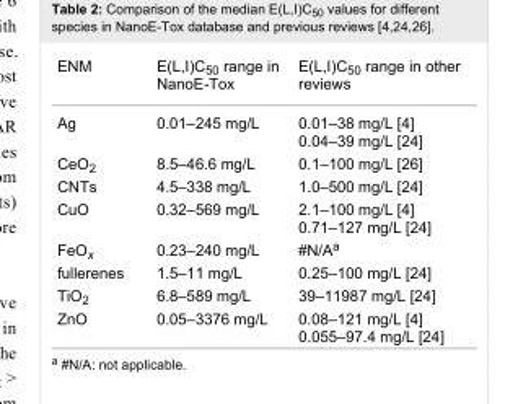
<table><tbody><tr><td>ENM</td><td>E(L,I)C<sub>50</sub> range in NanoE-Tox</td><td>E(L,I)C<sub>50</sub> range in other reviews</td></tr><tr><td>Ag</td><td>0.01–245 mg/L</td><td>0.01–38 mg/L [4] 0.04–39 mg/L [24]</td></tr><tr><td>CeO<sub>2</sub></td><td>8.5–46.6 mg/L</td><td>0.1–100 mg/L [26]</td></tr><tr><td>CNTs</td><td>4.5–338 mg/L</td><td>1.0–500 mg/L [24]</td></tr><tr><td>CuO</td><td>0.32–569 mg/L</td><td>2.1–100 mg/L [4] 0.71–127 mg/L [24]</td></tr><tr><td>FeO<sub>x</sub></td><td>0.23–240 mg/L</td><td>#N/A<sup>a</sup></td></tr><tr><td>fullerenes</td><td>1.5–11 mg/L</td><td>0.25–100 mg/L [24]</td></tr><tr><td>TiO<sub>2</sub></td><td>6.8–589 mg/L</td><td>39–11987 mg/L [24]</td></tr><tr><td>ZnO</td><td>0.05–3376 mg/L</td><td>0.08–121 mg/L [4] 0.055–97.4 mg/L [24]</td></tr></tbody></table>